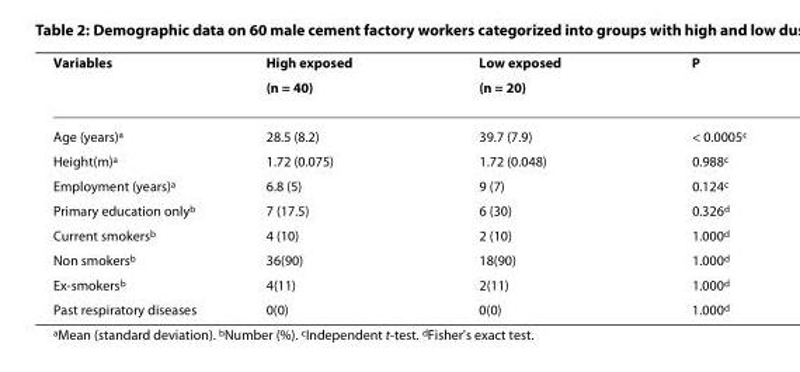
<table><thead><tr><td rowspan="2">Variables</td><td rowspan="2">High exposed (n = 40)</td><td rowspan="2">Low exposed (n = 20)</td><td rowspan="2">P</td></tr><tr></tr></thead><tbody><tr><td>Age (years)<sup>a</sup></td><td>28.5 (8.2)</td><td>39.7 (7.9)</td><td>&lt; 0.0005<sup>c</sup></td></tr><tr><td>Height(m)<sup>a</sup></td><td>1.72 (0.075)</td><td>1.72 (0.048)</td><td>0.988<sup>c</sup></td></tr><tr><td>Employment (years)<sup>a</sup></td><td>6.8 (5)</td><td>9 (7)</td><td>0.124<sup>c</sup></td></tr><tr><td>Primary education only<sup>b</sup></td><td>7 (17.5)</td><td>6 (30)</td><td>0.326<sup>d</sup></td></tr><tr><td>Current smokers<sup>b</sup></td><td>4 (10)</td><td>2 (10)</td><td>1.000<sup>d</sup></td></tr><tr><td>Non smokers<sup>b</sup></td><td>36(90)</td><td>18(90)</td><td>1.000<sup>d</sup></td></tr><tr><td>Ex-smokers<sup>b</sup></td><td>4(11)</td><td>2(11)</td><td>1.000<sup>d</sup></td></tr><tr><td>Past respiratory diseases</td><td>0(0)</td><td>0(0)</td><td>1.000<sup>d</sup></td></tr></tbody></table>